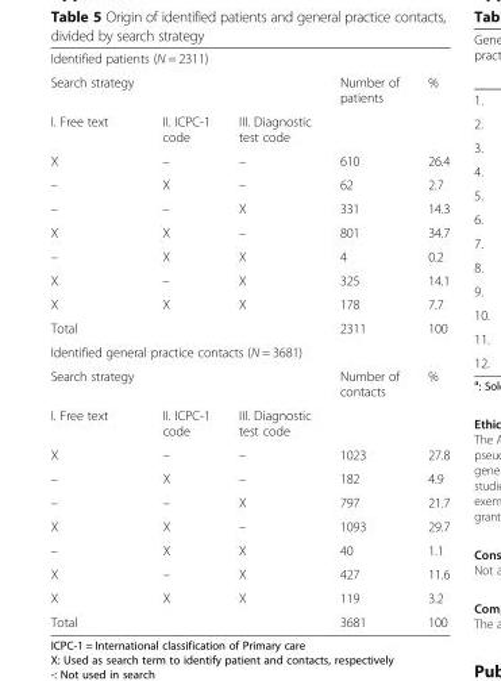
<table><tbody><tr><td colspan="5">Identified patients (N = 2311)</td></tr><tr><td colspan="3">Search strategy</td><td>Number of patients</td><td>%</td></tr><tr><td>I. Free text</td><td>II. ICPC-1 code</td><td>III. Diagnostic test code</td><td></td><td></td></tr><tr><td>X</td><td>–</td><td>–</td><td>610</td><td>26.4</td></tr><tr><td>–</td><td>X</td><td>–</td><td>62</td><td>2.7</td></tr><tr><td>–</td><td>–</td><td>X</td><td>331</td><td>14.3</td></tr><tr><td>X</td><td>X</td><td>–</td><td>801</td><td>34.7</td></tr><tr><td>–</td><td>X</td><td>X</td><td>4</td><td>0.2</td></tr><tr><td>X</td><td>–</td><td>X</td><td>325</td><td>14.1</td></tr><tr><td>X</td><td>X</td><td>X</td><td>178</td><td>7.7</td></tr><tr><td>Total</td><td></td><td></td><td>2311</td><td>100</td></tr><tr><td colspan="5">Identified general practice contacts (N = 3681)</td></tr><tr><td>Search strategy</td><td></td><td></td><td>Number of contacts</td><td>%</td></tr><tr><td>I. Free text</td><td>II. ICPC-1 code</td><td>III. Diagnostic test code</td><td></td><td></td></tr><tr><td>X</td><td>–</td><td>–</td><td>1023</td><td>27.8</td></tr><tr><td>–</td><td>X</td><td>–</td><td>182</td><td>4.9</td></tr><tr><td>–</td><td>–</td><td>X</td><td>797</td><td>21.7</td></tr><tr><td>X</td><td>X</td><td>–</td><td>1093</td><td>29.7</td></tr><tr><td>–</td><td>X</td><td>X</td><td>40</td><td>1.1</td></tr><tr><td>X</td><td>–</td><td>X</td><td>427</td><td>11.6</td></tr><tr><td>X</td><td>X</td><td>X</td><td>119</td><td>3.2</td></tr><tr><td colspan="3">Total</td><td>3681</td><td>100</td></tr></tbody></table>